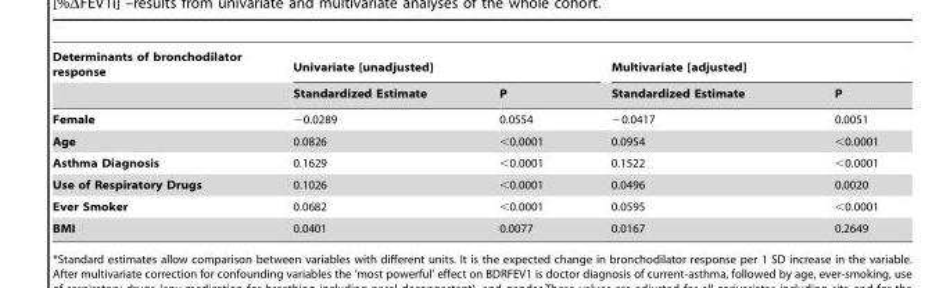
<table><thead><tr><td rowspan="2">Determinants of bronchodilator response</td><td colspan="2">Univariate [unadjusted]</td><td colspan="2">Multivariate [adjusted]</td></tr><tr><td>Standardized Estimate</td><td>P</td><td>Standardized Estimate</td><td>P</td></tr></thead><tbody><tr><td>Female</td><td>−0.0289</td><td>0.0554</td><td>−0.0417</td><td>0.0051</td></tr><tr><td>Age</td><td>0.0826</td><td>&lt;0.0001</td><td>0.0954</td><td>&lt;0.0001</td></tr><tr><td>Asthma Diagnosis</td><td>0.1629</td><td>&lt;0.0001</td><td>0.1522</td><td>&lt;0.0001</td></tr><tr><td>Use of Respiratory Drugs</td><td>0.1026</td><td>&lt;0.0001</td><td>0.0496</td><td>0.0020</td></tr><tr><td>Ever Smoker</td><td>0.0682</td><td>&lt;0.0001</td><td>0.0595</td><td>&lt;0.0001</td></tr><tr><td>BMI</td><td>0.0401</td><td>0.0077</td><td>0.0167</td><td>0.2649</td></tr></tbody></table>